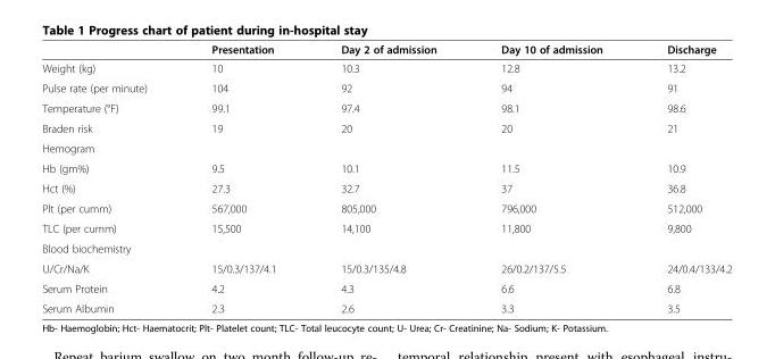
<table><thead><tr><td></td><td>Presentation</td><td>Day 2 of admission</td><td>Day 10 of admission</td><td>Discharge</td></tr></thead><tbody><tr><td>Weight (kg)</td><td>10</td><td>10.3</td><td>12.8</td><td>13.2</td></tr><tr><td>Pulse rate (per minute)</td><td>104</td><td>92</td><td>94</td><td>91</td></tr><tr><td>Temperature (°F)</td><td>99.1</td><td>97.4</td><td>98.1</td><td>98.6</td></tr><tr><td>Braden risk</td><td>19</td><td>20</td><td>20</td><td>21</td></tr><tr><td colspan="5">Hemogram</td></tr><tr><td>Hb (gm%)</td><td>9.5</td><td>10.1</td><td>11.5</td><td>10.9</td></tr><tr><td>Hct (%)</td><td>27.3</td><td>32.7</td><td>37</td><td>36.8</td></tr><tr><td>Plt (per cumm)</td><td>567,000</td><td>805,000</td><td>796,000</td><td>512,000</td></tr><tr><td>TLC (per cumm)</td><td>15,500</td><td>14,100</td><td>11,800</td><td>9,800</td></tr><tr><td colspan="5">Blood biochemistry</td></tr><tr><td>U/Cr/Na/K</td><td>15/0.3/137/4.1</td><td>15/0.3/135/4.8</td><td>26/0.2/137/5.5</td><td>24/0.4/133/4.2</td></tr><tr><td>Serum Protein</td><td>4.2</td><td>4.3</td><td>6.6</td><td>6.8</td></tr><tr><td>Serum Albumin</td><td>2.3</td><td>2.6</td><td>3.3</td><td>3.5</td></tr></tbody></table>